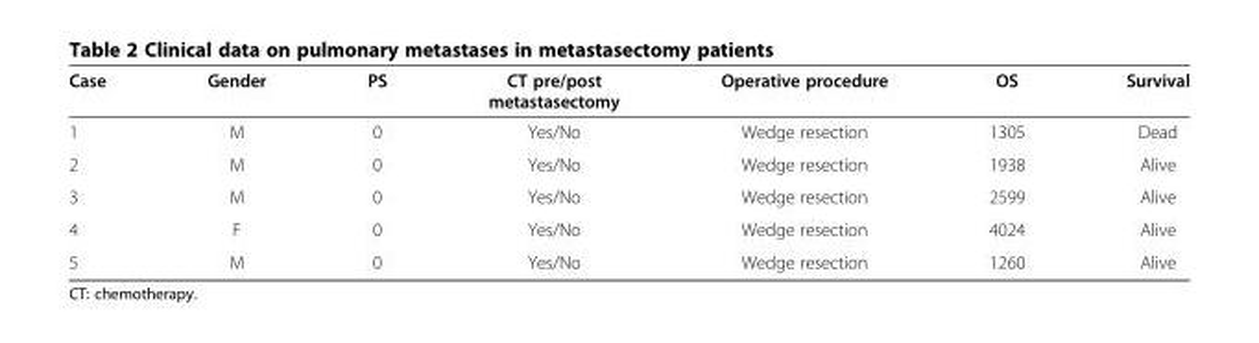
<table><thead><tr><td>Case</td><td>Gender</td><td>PS</td><td>CT pre/post metastasectomy</td><td>Operative procedure</td><td>OS</td><td>Survival</td></tr></thead><tbody><tr><td>1</td><td>M</td><td>0</td><td>Yes/No</td><td>Wedge resection</td><td>1305</td><td>Dead</td></tr><tr><td>2</td><td>M</td><td>0</td><td>Yes/No</td><td>Wedge resection</td><td>1938</td><td>Alive</td></tr><tr><td>3</td><td>M</td><td>0</td><td>Yes/No</td><td>Wedge resection</td><td>2599</td><td>Alive</td></tr><tr><td>4</td><td>F</td><td>0</td><td>Yes/No</td><td>Wedge resection</td><td>4024</td><td>Alive</td></tr><tr><td>5</td><td>M</td><td>0</td><td>Yes/No</td><td>Wedge resection</td><td>1260</td><td>Alive</td></tr></tbody></table>